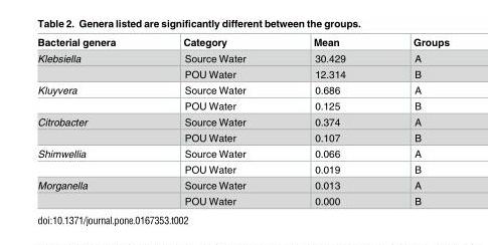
<table><thead><tr><td>Bacterial genera</td><td>Category</td><td>Mean</td><td>Groups</td></tr></thead><tbody><tr><td rowspan="2">Klebsiella</td><td>Source Water</td><td>30.429</td><td>A</td></tr><tr><td>POU Water</td><td>12.314</td><td>B</td></tr><tr><td rowspan="2">Kluyvera</td><td>Source Water</td><td>0.686</td><td>A</td></tr><tr><td>POU Water</td><td>0.125</td><td>B</td></tr><tr><td rowspan="2">Citrobacter</td><td>Source Water</td><td>0.374</td><td>A</td></tr><tr><td>POU Water</td><td>0.107</td><td>B</td></tr><tr><td rowspan="2">Shimwellia</td><td>Source Water</td><td>0.066</td><td>A</td></tr><tr><td>POU Water</td><td>0.019</td><td>B</td></tr><tr><td rowspan="2">Morganella</td><td>Source Water</td><td>0.013</td><td>A</td></tr><tr><td>POU Water</td><td>0.000</td><td>B</td></tr></tbody></table>